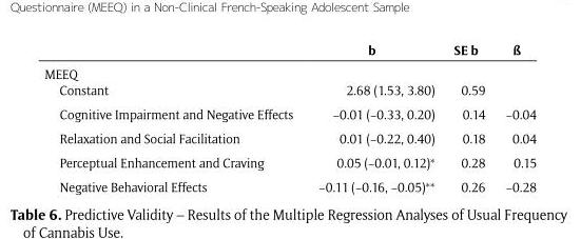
<table><thead><tr><td></td><td>b</td><td>SE b</td><td>ß</td></tr></thead><tbody><tr><td colspan="4">MEEQ</td></tr><tr><td>Constant</td><td>2.68 (1.53, 3.80)</td><td>0.59</td><td></td></tr><tr><td>Cognitive Impairment and Negative Effects</td><td>−0.01 (−0.33, 0.20)</td><td>0.14</td><td>−0.04</td></tr><tr><td>Relaxation and Social Facilitation</td><td>0.01 (−0.22, 0.40)</td><td>0.18</td><td>0.04</td></tr><tr><td>Perceptual Enhancement and Craving</td><td>0.05 (−0.01, 0.12)*</td><td>0.28</td><td>0.15</td></tr><tr><td>Negative Behavioral Effects</td><td>−0.11 (−0.16, −0.05)**</td><td>0.26</td><td>−0.28</td></tr></tbody></table>